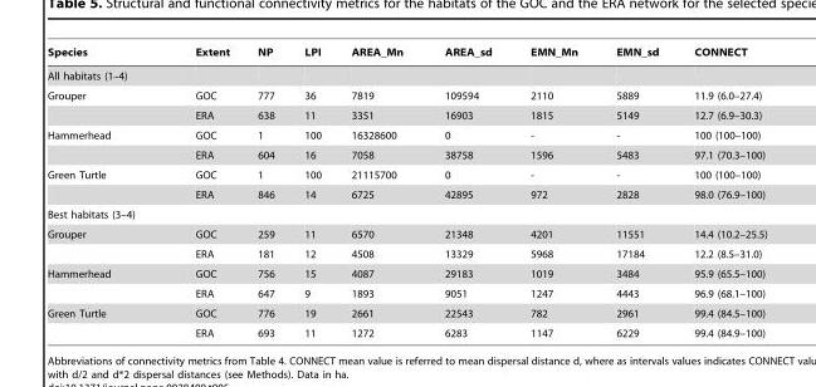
<table><thead><tr><td>Species</td><td>Extent</td><td>NP</td><td>LPI</td><td>AREA_Mn</td><td>AREA_sd</td><td>EMN_Mn</td><td>EMN_sd</td><td>CONNECT</td></tr></thead><tbody><tr><td colspan="9">All habitats (1–4)</td></tr><tr><td rowspan="2">Grouper</td><td>GOC</td><td>777</td><td>36</td><td>7819</td><td>109594</td><td>2110</td><td>5889</td><td>11.9 (6.0–27.4)</td></tr><tr><td>ERA</td><td>638</td><td>11</td><td>3351</td><td>16903</td><td>1815</td><td>5149</td><td>12.7 (6.9–30.3)</td></tr><tr><td rowspan="2">Hammerhead</td><td>GOC</td><td>1</td><td>100</td><td>16328600</td><td>0</td><td>-</td><td>-</td><td>100 (100–100)</td></tr><tr><td>ERA</td><td>604</td><td>16</td><td>7058</td><td>38758</td><td>1596</td><td>5483</td><td>97.1 (70.3–100)</td></tr><tr><td rowspan="2">Green Turtle</td><td>GOC</td><td>1</td><td>100</td><td>21115700</td><td>0</td><td>-</td><td>-</td><td>100 (100–100)</td></tr><tr><td>ERA</td><td>846</td><td>14</td><td>6725</td><td>42895</td><td>972</td><td>2828</td><td>98.0 (76.9–100)</td></tr><tr><td colspan="9">Best habitats (3–4)</td></tr><tr><td rowspan="2">Grouper</td><td>GOC</td><td>259</td><td>11</td><td>6570</td><td>21348</td><td>4201</td><td>11551</td><td>14.4 (10.2–25.5)</td></tr><tr><td>ERA</td><td>181</td><td>12</td><td>4508</td><td>13329</td><td>5968</td><td>17184</td><td>12.2 (8.5–31.0)</td></tr><tr><td rowspan="2">Hammerhead</td><td>GOC</td><td>756</td><td>15</td><td>4087</td><td>29183</td><td>1019</td><td>3484</td><td>95.9 (65.5–100)</td></tr><tr><td>ERA</td><td>647</td><td>9</td><td>1893</td><td>9051</td><td>1247</td><td>4443</td><td>96.9 (68.1–100)</td></tr><tr><td rowspan="2">Green Turtle</td><td>GOC</td><td>776</td><td>19</td><td>2661</td><td>22543</td><td>782</td><td>2961</td><td>99.4 (84.5–100)</td></tr><tr><td>ERA</td><td>693</td><td>11</td><td>1272</td><td>6283</td><td>1147</td><td>6229</td><td>99.4 (84.9–100)</td></tr></tbody></table>